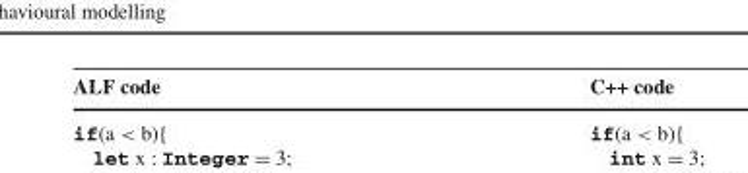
<table><thead><tr><td>ALF code</td><td>C++ code</td></tr></thead><tbody></tbody></table>